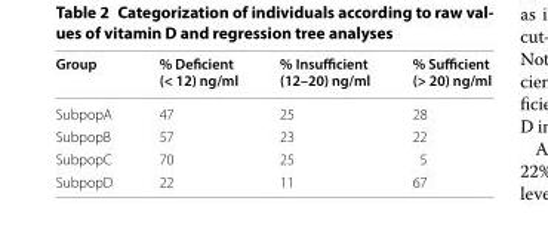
<table><thead><tr><td>Group</td><td>% Deficient (&lt; 12) ng/ml</td><td>% Insufficient (12–20) ng/ml</td><td>% Sufficient (&gt; 20) ng/ml</td></tr></thead><tbody><tr><td>SubpopA</td><td>47</td><td>25</td><td>28</td></tr><tr><td>SubpopB</td><td>57</td><td>23</td><td>22</td></tr><tr><td>SubpopC</td><td>70</td><td>25</td><td>5</td></tr><tr><td>SubpopD</td><td>22</td><td>11</td><td>67</td></tr></tbody></table>